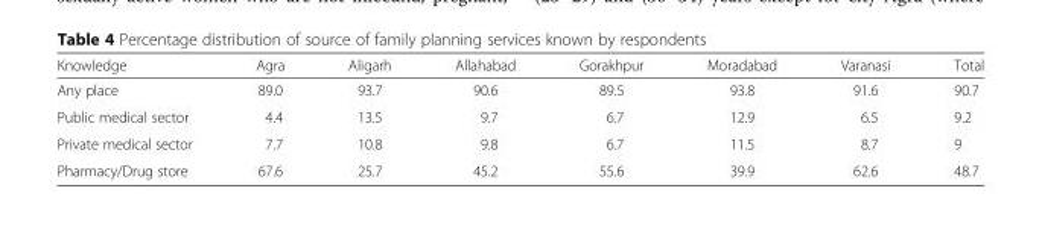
<table><thead><tr><td>Knowledge</td><td>Agra</td><td>Aligarh</td><td>Allahabad</td><td>Gorakhpur</td><td>Moradabad</td><td>Varanasi</td><td>Total</td></tr></thead><tbody><tr><td>Any place</td><td>89.0</td><td>93.7</td><td>90.6</td><td>89.5</td><td>93.8</td><td>91.6</td><td>90.7</td></tr><tr><td>Public medical sector</td><td>4.4</td><td>13.5</td><td>9.7</td><td>6.7</td><td>12.9</td><td>6.5</td><td>9.2</td></tr><tr><td>Private medical sector</td><td>7.7</td><td>10.8</td><td>9.8</td><td>6.7</td><td>11.5</td><td>8.7</td><td>9</td></tr><tr><td>Pharmacy/Drug store</td><td>67.6</td><td>25.7</td><td>45.2</td><td>55.6</td><td>39.9</td><td>62.6</td><td>48.7</td></tr></tbody></table>